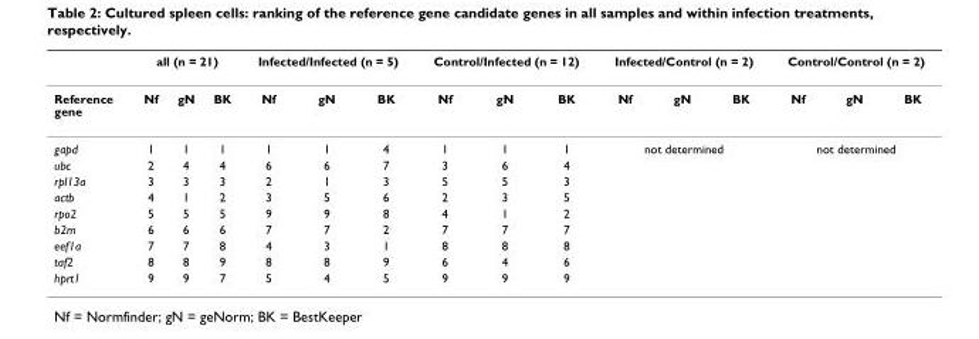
<table><thead><tr><td rowspan="2">Reference gene</td><td colspan="3">all (n = 21)</td><td colspan="3">Infected/Infected (n = 5)</td><td colspan="3">Control/Infected (n = 12)</td><td colspan="3">Infected/Control (n = 2)</td><td colspan="3">Control/Control (n = 2)</td></tr><tr><td>Nf</td><td>gN</td><td>BK</td><td>Nf</td><td>gN</td><td>BK</td><td>Nf</td><td>gN</td><td>BK</td><td>Nf</td><td>gN</td><td>BK</td><td>Nf</td><td>gN</td><td>BK</td></tr></thead><tbody><tr><td>gapd</td><td>1</td><td>1</td><td>1</td><td>1</td><td>1</td><td>4</td><td>1</td><td>1</td><td>1</td><td colspan="3">not determined</td><td colspan="3">not determined</td></tr><tr><td>ubc</td><td>2</td><td>4</td><td>4</td><td>6</td><td>6</td><td>7</td><td>3</td><td>6</td><td>4</td><td></td><td></td><td></td><td></td><td></td><td></td></tr><tr><td>rpl13a</td><td>3</td><td>3</td><td>3</td><td>2</td><td>1</td><td>3</td><td>5</td><td>5</td><td>3</td><td></td><td></td><td></td><td></td><td></td><td></td></tr><tr><td>actb</td><td>4</td><td>1</td><td>2</td><td>3</td><td>5</td><td>6</td><td>2</td><td>3</td><td>5</td><td></td><td></td><td></td><td></td><td></td><td></td></tr><tr><td>rpo2</td><td>5</td><td>5</td><td>5</td><td>9</td><td>9</td><td>8</td><td>4</td><td>1</td><td>2</td><td></td><td></td><td></td><td></td><td></td><td></td></tr><tr><td>b2m</td><td>6</td><td>6</td><td>6</td><td>7</td><td>7</td><td>2</td><td>7</td><td>7</td><td>7</td><td></td><td></td><td></td><td></td><td></td><td></td></tr><tr><td>eef1a</td><td>7</td><td>7</td><td>8</td><td>4</td><td>3</td><td>1</td><td>8</td><td>8</td><td>8</td><td></td><td></td><td></td><td></td><td></td><td></td></tr><tr><td>taf2</td><td>8</td><td>8</td><td>9</td><td>8</td><td>8</td><td>9</td><td>6</td><td>4</td><td>6</td><td></td><td></td><td></td><td></td><td></td><td></td></tr><tr><td>hprt1</td><td>9</td><td>9</td><td>7</td><td>5</td><td>4</td><td>5</td><td>9</td><td>9</td><td>9</td><td></td><td></td><td></td><td></td><td></td><td></td></tr></tbody></table>